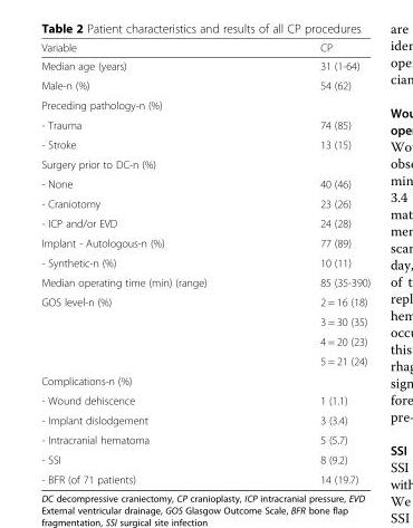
<table><thead><tr><td>Variable</td><td>CP</td></tr></thead><tbody><tr><td>Median age (years)</td><td>31 (1-64)</td></tr><tr><td>Male-n (%)</td><td>54 (62)</td></tr><tr><td colspan="2">Preceding pathology-n (%)</td></tr><tr><td>- Trauma</td><td>74 (85)</td></tr><tr><td>- Stroke</td><td>13 (15)</td></tr><tr><td colspan="2">Surgery prior to DC-n (%)</td></tr><tr><td>- None</td><td>40 (46)</td></tr><tr><td>- Craniotomy</td><td>23 (26)</td></tr><tr><td>- ICP and/or EVD</td><td>24 (28)</td></tr><tr><td>Implant - Autologous-n (%)</td><td>77 (89)</td></tr><tr><td>- Synthetic-n (%)</td><td>10 (11)</td></tr><tr><td>Median operating time (min) (range)</td><td>85 (35-390)</td></tr><tr><td rowspan="4">GOS level-n (%)</td><td>2 = 16 (18)</td></tr><tr><td>3 = 30 (35)</td></tr><tr><td>4 = 20 (23)</td></tr><tr><td>5 = 21 (24)</td></tr><tr><td colspan="2">Complications-n (%)</td></tr><tr><td>- Wound dehiscence</td><td>1 (1.1)</td></tr><tr><td>- Implant dislodgement</td><td>3 (3.4)</td></tr><tr><td>- Intracranial hematoma</td><td>5 (5.7)</td></tr><tr><td>- SSI</td><td>8 (9.2)</td></tr><tr><td>- BFR (of 71 patients)</td><td>14 (19.7)</td></tr></tbody></table>